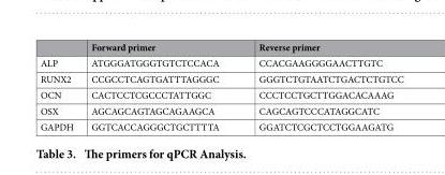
<table><thead><tr><td></td><td>Forward primer</td><td>Reverse primer</td></tr></thead><tbody><tr><td>ALP</td><td>ATGGGATGGGTGTCTCCACA</td><td>CCACGAAGGGGAACTTGTC</td></tr><tr><td>RUNX2</td><td>CCGCCTCAGTGATTTAGGGC</td><td>GGGTCTGTAATCTGACTCTGTCC</td></tr><tr><td>OCN</td><td>CACTCCTCGCCCTATTGGC</td><td>CCCTCCTGCTTGGACACAAAG</td></tr><tr><td>OSX</td><td>AGCAGCAGTAGCAGAAGCA</td><td>CAGCAGTCCCATAGGCATC</td></tr><tr><td>GAPDH</td><td>GGTCACCAGGGCTGCTTTTA</td><td>GGATCTCGCTCCTGGAAGATG</td></tr></tbody></table>